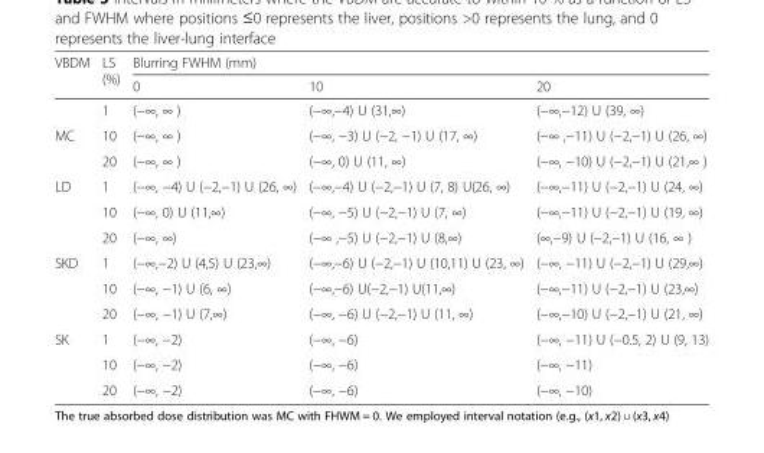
<table><thead><tr><td rowspan="2">VBDM</td><td rowspan="2">LS (%)</td><td colspan="3">Blurring FWHM (mm)</td></tr><tr><td>0</td><td>10</td><td>20</td></tr></thead><tbody><tr><td rowspan="3">MC</td><td>1</td><td>(−∞, ∞ )</td><td>(−∞,−4) U (31,∞)</td><td>(−∞,−12) U (39, ∞)</td></tr><tr><td>10</td><td>(−∞, ∞ )</td><td>(−∞, −3) U (−2, −1) U (17, ∞)</td><td>(−∞ ,−11) U (−2,−1) U (26, ∞)</td></tr><tr><td>20</td><td>(−∞, ∞ )</td><td>(−∞, 0) U (11, ∞)</td><td>(−∞, −10) U (−2,−1) U (21,∞ )</td></tr><tr><td rowspan="3">LD</td><td>1</td><td>(−∞, −4) U (−2,−1) U (26, ∞)</td><td>(−∞,−4) U (−2,−1) U (7, 8) U(26, ∞)</td><td>(−∞,−11) U (−2,−1) U (24, ∞)</td></tr><tr><td>10</td><td>(−∞, 0) U (11,∞)</td><td>(−∞, −5) U (−2,−1) U (7, ∞)</td><td>(−∞,−11) U (−2,−1) U (19, ∞)</td></tr><tr><td>20</td><td>(−∞, ∞)</td><td>(−∞ ,−5) U (−2,−1) U (8,∞)</td><td>(∞,−9) U (−2,−1) U (16, ∞ )</td></tr><tr><td rowspan="3">SKD</td><td>1</td><td>(−∞,−2) U (4,5) U (23,∞)</td><td>(−∞,−6) U (−2,−1) U (10,11) U (23, ∞)</td><td>(−∞, −11) U (−2,−1) U (29,∞)</td></tr><tr><td>10</td><td>(−∞, −1) U (6, ∞)</td><td>(−∞,−6) U(−2,−1) U(11,∞)</td><td>(−∞,−11) U (−2,−1) U (23,∞)</td></tr><tr><td>20</td><td>(−∞, −1) U (7,∞)</td><td>(−∞, −6) U (−2,−1) U (11, ∞)</td><td>(−∞,−10) U (−2,−1) U (21, ∞)</td></tr><tr><td rowspan="3">SK</td><td>1</td><td>(−∞, −2)</td><td>(−∞, −6)</td><td>(−∞, −11) U (−0.5, 2) U (9, 13)</td></tr><tr><td>10</td><td>(−∞, −2)</td><td>(−∞, −6)</td><td>(−∞, −11)</td></tr><tr><td>20</td><td>(−∞, −2)</td><td>(−∞, −6)</td><td>(−∞, −10)</td></tr></tbody></table>